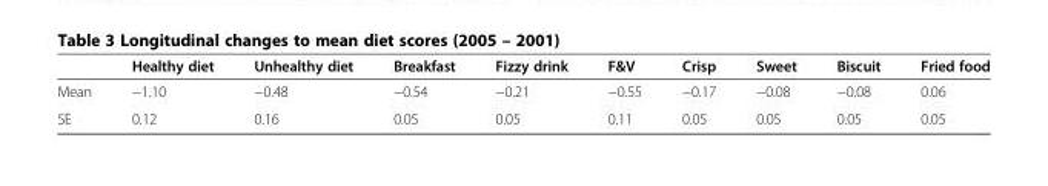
<table><thead><tr><td></td><td>Healthy diet</td><td>Unhealthy diet</td><td>Breakfast</td><td>Fizzy drink</td><td>F&amp;V</td><td>Crisp</td><td>Sweet</td><td>Biscuit</td><td>Fried food</td></tr></thead><tbody><tr><td>Mean</td><td>−1.10</td><td>−0.48</td><td>−0.54</td><td>−0.21</td><td>−0.55</td><td>−0.17</td><td>−0.08</td><td>−0.08</td><td>0.06</td></tr><tr><td>SE</td><td>0.12</td><td>0.16</td><td>0.05</td><td>0.05</td><td>0.11</td><td>0.05</td><td>0.05</td><td>0.05</td><td>0.05</td></tr></tbody></table>